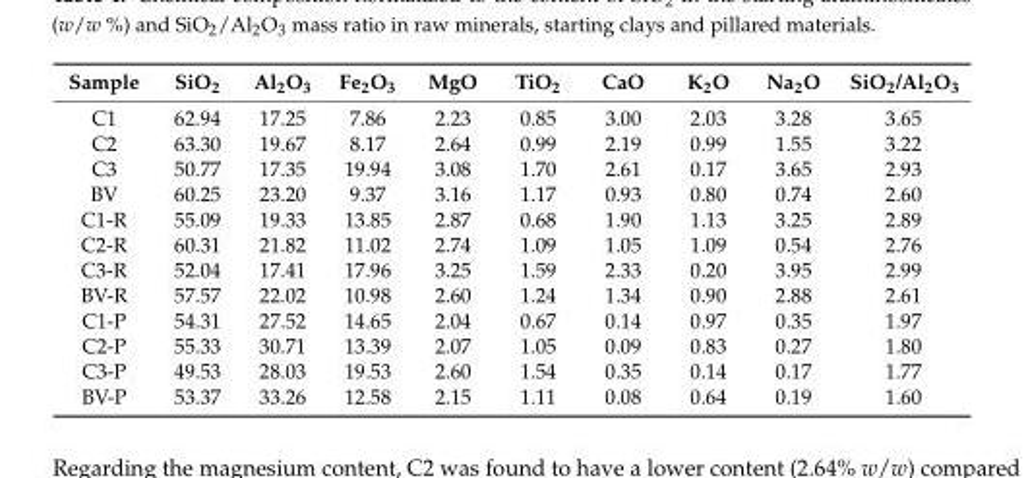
<table><thead><tr><td>Sample</td><td>SiO<sub>2</sub></td><td>Al<sub>2</sub>O<sub>3</sub></td><td>Fe<sub>2</sub>O<sub>3</sub></td><td>MgO</td><td>TiO<sub>2</sub></td><td>CaO</td><td>K<sub>2</sub>O</td><td>Na<sub>2</sub>O</td><td>SiO<sub>2</sub>/Al<sub>2</sub>O<sub>3</sub></td></tr></thead><tbody><tr><td>C1</td><td>62.94</td><td>17.25</td><td>7.86</td><td>2.23</td><td>0.85</td><td>3.00</td><td>2.03</td><td>3.28</td><td>3.65</td></tr><tr><td>C2</td><td>63.30</td><td>19.67</td><td>8.17</td><td>2.64</td><td>0.99</td><td>2.19</td><td>0.99</td><td>1.55</td><td>3.22</td></tr><tr><td>C3</td><td>50.77</td><td>17.35</td><td>19.94</td><td>3.08</td><td>1.70</td><td>2.61</td><td>0.17</td><td>3.65</td><td>2.93</td></tr><tr><td>BV</td><td>60.25</td><td>23.20</td><td>9.37</td><td>3.16</td><td>1.17</td><td>0.93</td><td>0.80</td><td>0.74</td><td>2.60</td></tr><tr><td>C1-R</td><td>55.09</td><td>19.33</td><td>13.85</td><td>2.87</td><td>0.68</td><td>1.90</td><td>1.13</td><td>3.25</td><td>2.89</td></tr><tr><td>C2-R</td><td>60.31</td><td>21.82</td><td>11.02</td><td>2.74</td><td>1.09</td><td>1.05</td><td>1.09</td><td>0.54</td><td>2.76</td></tr><tr><td>C3-R</td><td>52.04</td><td>17.41</td><td>17.96</td><td>3.25</td><td>1.59</td><td>2.33</td><td>0.20</td><td>3.95</td><td>2.99</td></tr><tr><td>BV-R</td><td>57.57</td><td>22.02</td><td>10.98</td><td>2.60</td><td>1.24</td><td>1.34</td><td>0.90</td><td>2.88</td><td>2.61</td></tr><tr><td>C1-P</td><td>54.31</td><td>27.52</td><td>14.65</td><td>2.04</td><td>0.67</td><td>0.14</td><td>0.97</td><td>0.35</td><td>1.97</td></tr><tr><td>C2-P</td><td>55.33</td><td>30.71</td><td>13.39</td><td>2.07</td><td>1.05</td><td>0.09</td><td>0.83</td><td>0.27</td><td>1.80</td></tr><tr><td>C3-P</td><td>49.53</td><td>28.03</td><td>19.53</td><td>2.60</td><td>1.54</td><td>0.35</td><td>0.14</td><td>0.17</td><td>1.77</td></tr><tr><td>BV-P</td><td>53.37</td><td>33.26</td><td>12.58</td><td>2.15</td><td>1.11</td><td>0.08</td><td>0.64</td><td>0.19</td><td>1.60</td></tr></tbody></table>